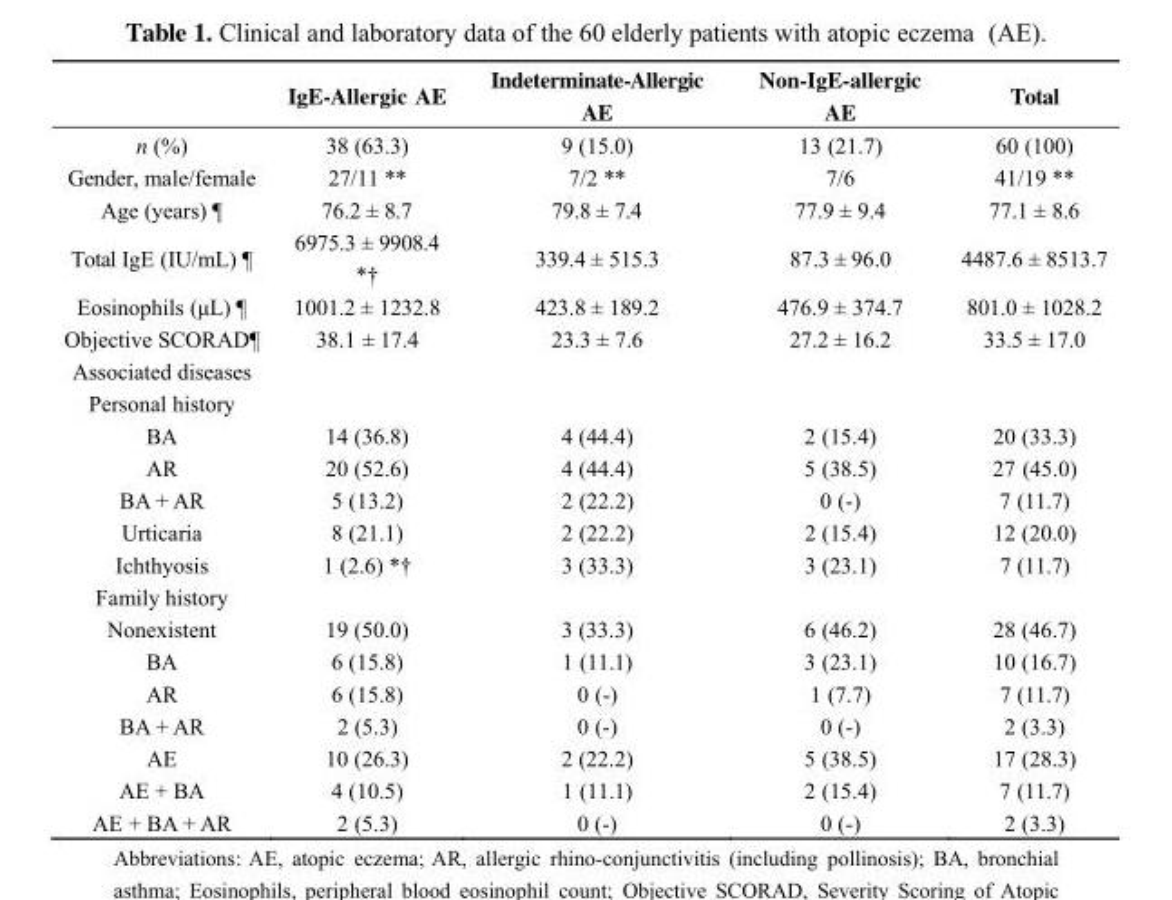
<table><thead><tr><td></td><td>IgE-Allergic AE</td><td>Indeterminate-Allergic AE</td><td>Non-IgE-allergic AE</td><td>Total</td></tr></thead><tbody><tr><td>n (%)</td><td>38 (63.3)</td><td>9 (15.0)</td><td>13 (21.7)</td><td>60 (100)</td></tr><tr><td>Gender, male/female</td><td>27/11 **</td><td>7/2 **</td><td>7/6</td><td>41/19 **</td></tr><tr><td>Age (years) ¶</td><td>76.2 ± 8.7</td><td>79.8 ± 7.4</td><td>77.9 ± 9.4</td><td>77.1 ± 8.6</td></tr><tr><td>Total IgE (IU/mL) ¶</td><td>6975.3 ± 9908.4 *†</td><td>339.4 ± 515.3</td><td>87.3 ± 96.0</td><td>4487.6 ± 8513.7</td></tr><tr><td>Eosinophils (μL) ¶</td><td>1001.2 ± 1232.8</td><td>423.8 ± 189.2</td><td>476.9 ± 374.7</td><td>801.0 ± 1028.2</td></tr><tr><td>Objective SCORAD¶</td><td>38.1 ± 17.4</td><td>23.3 ± 7.6</td><td>27.2 ± 16.2</td><td>33.5 ± 17.0</td></tr><tr><td colspan="5">Associated diseases</td></tr><tr><td colspan="5">Personal history</td></tr><tr><td>BA</td><td>14 (36.8)</td><td>4 (44.4)</td><td>2 (15.4)</td><td>20 (33.3)</td></tr><tr><td>AR</td><td>20 (52.6)</td><td>4 (44.4)</td><td>5 (38.5)</td><td>27 (45.0)</td></tr><tr><td>BA + AR</td><td>5 (13.2)</td><td>2 (22.2)</td><td>0 (-)</td><td>7 (11.7)</td></tr><tr><td>Urticaria</td><td>8 (21.1)</td><td>2 (22.2)</td><td>2 (15.4)</td><td>12 (20.0)</td></tr><tr><td>Ichthyosis</td><td>1 (2.6) *†</td><td>3 (33.3)</td><td>3 (23.1)</td><td>7 (11.7)</td></tr><tr><td colspan="5">Family history</td></tr><tr><td>Nonexistent</td><td>19 (50.0)</td><td>3 (33.3)</td><td>6 (46.2)</td><td>28 (46.7)</td></tr><tr><td>BA</td><td>6 (15.8)</td><td>1 (11.1)</td><td>3 (23.1)</td><td>10 (16.7)</td></tr><tr><td>AR</td><td>6 (15.8)</td><td>0 (-)</td><td>1 (7.7)</td><td>7 (11.7)</td></tr><tr><td>BA + AR</td><td>2 (5.3)</td><td>0 (-)</td><td>0 (-)</td><td>2 (3.3)</td></tr><tr><td>AE</td><td>10 (26.3)</td><td>2 (22.2)</td><td>5 (38.5)</td><td>17 (28.3)</td></tr><tr><td>AE + BA</td><td>4 (10.5)</td><td>1 (11.1)</td><td>2 (15.4)</td><td>7 (11.7)</td></tr><tr><td>AE + BA + AR</td><td>2 (5.3)</td><td>0 (-)</td><td>0 (-)</td><td>2 (3.3)</td></tr></tbody></table>